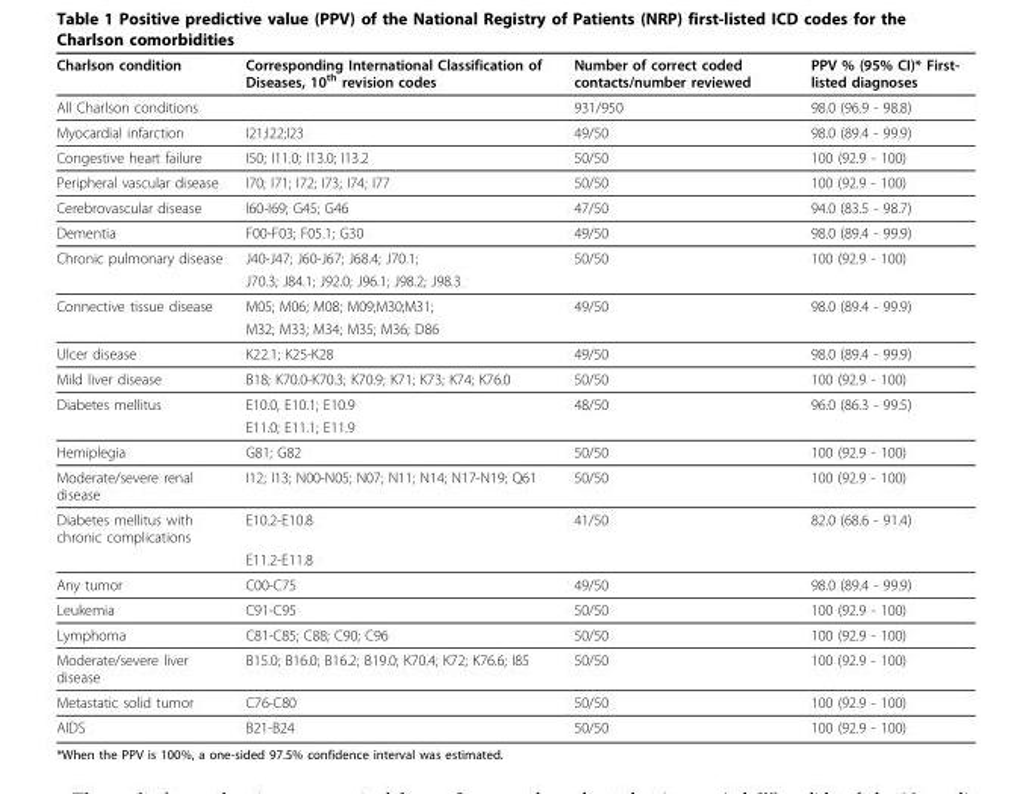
<table><thead><tr><td>Charlson condition</td><td>Corresponding International Classification of Diseases, 10<sup>th</sup> revision codes</td><td>Number of correct coded contacts/number reviewed</td><td>PPV % (95% CI)* First- listed diagnoses</td></tr></thead><tbody><tr><td>All Charlson conditions</td><td></td><td>931/950</td><td>98.0 (96.9 - 98.8)</td></tr><tr><td>Myocardial infarction</td><td>I21;I22;I23</td><td>49/50</td><td>98.0 (89.4 - 99.9)</td></tr><tr><td>Congestive heart failure</td><td>I50; I11.0; I13.0; I13.2</td><td>50/50</td><td>100 (92.9 - 100)</td></tr><tr><td>Peripheral vascular disease</td><td>I70; I71; I72; I73; I74; I77</td><td>50/50</td><td>100 (92.9 - 100)</td></tr><tr><td>Cerebrovascular disease</td><td>I60-I69; G45; G46</td><td>47/50</td><td>94.0 (83.5 - 98.7)</td></tr><tr><td>Dementia</td><td>F00-F03; F05.1; G30</td><td>49/50</td><td>98.0 (89.4 - 99.9)</td></tr><tr><td rowspan="2">Chronic pulmonary disease</td><td>J40-J47; J60-J67; J68.4; J70.1;</td><td>50/50</td><td>100 (92.9 - 100)</td></tr><tr><td>J70.3; J84.1; J92.0; J96.1; J98.2; J98.3</td><td></td><td></td></tr><tr><td rowspan="2">Connective tissue disease</td><td>M05; M06; M08; M09;M30;M31;</td><td>49/50</td><td>98.0 (89.4 - 99.9)</td></tr><tr><td>M32; M33; M34; M35; M36; D86</td><td></td><td></td></tr><tr><td>Ulcer disease</td><td>K22.1; K25-K28</td><td>49/50</td><td>98.0 (89.4 - 99.9)</td></tr><tr><td>Mild liver disease</td><td>B18; K70.0-K70.3; K70.9; K71; K73; K74; K76.0</td><td>50/50</td><td>100 (92.9 - 100)</td></tr><tr><td rowspan="2">Diabetes mellitus</td><td>E10.0, E10.1; E10.9</td><td>48/50</td><td>96.0 (86.3 - 99.5)</td></tr><tr><td>E11.0; E11.1; E11.9</td><td></td><td></td></tr><tr><td>Hemiplegia</td><td>G81; G82</td><td>50/50</td><td>100 (92.9 - 100)</td></tr><tr><td>Moderate/severe renal disease</td><td>I12; I13; N00-N05; N07; N11; N14; N17-N19; Q61</td><td>50/50</td><td>100 (92.9 - 100)</td></tr><tr><td rowspan="2">Diabetes mellitus with chronic complications</td><td>E10.2-E10.8</td><td>41/50</td><td>82.0 (68.6 - 91.4)</td></tr><tr><td>E11.2-E11.8</td><td></td><td></td></tr><tr><td>Any tumor</td><td>C00-C75</td><td>49/50</td><td>98.0 (89.4 - 99.9)</td></tr><tr><td>Leukemia</td><td>C91-C95</td><td>50/50</td><td>100 (92.9 - 100)</td></tr><tr><td>Lymphoma</td><td>C81-C85; C88; C90; C96</td><td>50/50</td><td>100 (92.9 - 100)</td></tr><tr><td>Moderate/severe liver disease</td><td>B15.0; B16.0; B16.2; B19.0; K70.4; K72; K76.6; I85</td><td>50/50</td><td>100 (92.9 - 100)</td></tr><tr><td>Metastatic solid tumor</td><td>C76-C80</td><td>50/50</td><td>100 (92.9 - 100)</td></tr><tr><td>AIDS</td><td>B21-B24</td><td>50/50</td><td>100 (92.9 - 100)</td></tr></tbody></table>